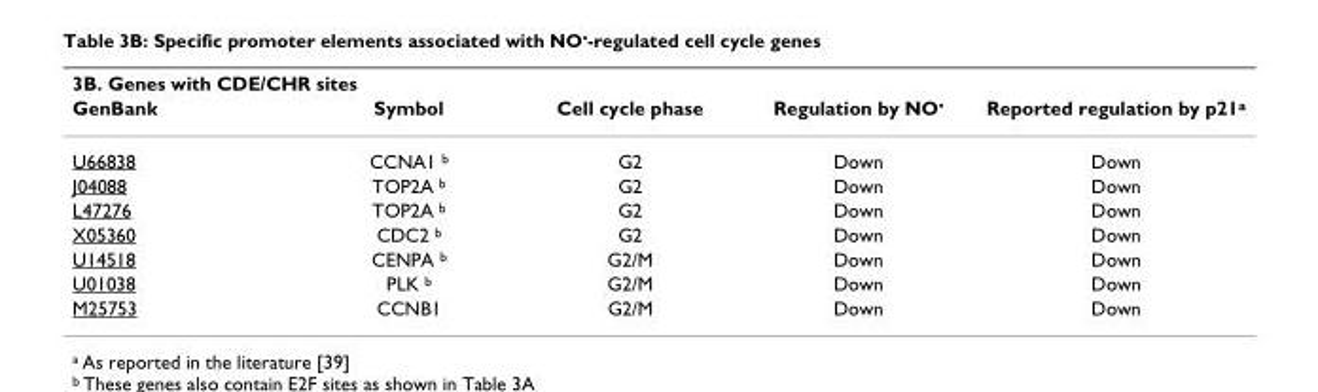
<table><thead><tr><td colspan="5">3B. Genes with CDE/CHR sites</td></tr><tr><td>GenBank</td><td>Symbol</td><td>Cell cycle phase</td><td>Regulation by NO<sup>•</sup></td><td>Reported regulation by p21<sup>a</sup></td></tr></thead><tbody><tr><td>U66838</td><td>CCNA1 <sup>b</sup></td><td>G2</td><td>Down</td><td>Down</td></tr><tr><td>J04088</td><td>TOP2A <sup>b</sup></td><td>G2</td><td>Down</td><td>Down</td></tr><tr><td>L47276</td><td>TOP2A <sup>b</sup></td><td>G2</td><td>Down</td><td>Down</td></tr><tr><td>X05360</td><td>CDC2 <sup>b</sup></td><td>G2</td><td>Down</td><td>Down</td></tr><tr><td>U14518</td><td>CENPA <sup>b</sup></td><td>G2/M</td><td>Down</td><td>Down</td></tr><tr><td>U01038</td><td>PLK <sup>b</sup></td><td>G2/M</td><td>Down</td><td>Down</td></tr><tr><td>M25753</td><td>CCNB1</td><td>G2/M</td><td>Down</td><td>Down</td></tr></tbody></table>